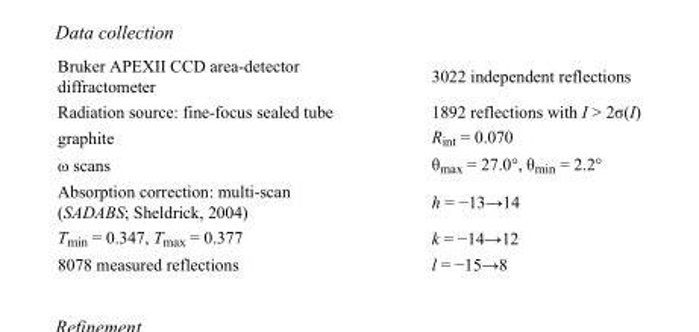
<table><tbody><tr><td>Bruker APEXII CCD area-detector diffractometer</td><td>3022 independent reflections</td></tr><tr><td>Radiation source: fine-focus sealed tube</td><td>1892 reflections with I &gt; 2σ(I)</td></tr><tr><td>graphite</td><td>R<sub>int</sub> = 0.070</td></tr><tr><td>ω scans</td><td>θ<sub>max</sub> = 27.0°, θ<sub>min</sub> = 2.2°</td></tr><tr><td>Absorption correction: multi-scan (SADABS; Sheldrick, 2004)</td><td>h = −13→14</td></tr><tr><td>T<sub>min</sub> = 0.347, T<sub>max</sub> = 0.377</td><td>k = −14→12</td></tr><tr><td>8078 measured reflections</td><td>l = −15→8</td></tr></tbody></table>